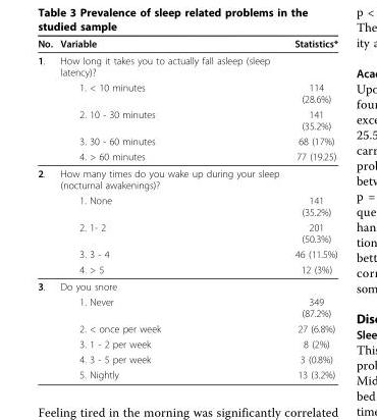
<table><thead><tr><td>No.</td><td>Variable</td><td>Statistics*</td></tr></thead><tbody><tr><td rowspan="5">1.</td><td>How long it takes you to actually fall asleep (sleep latency)?</td><td></td></tr><tr><td>1. &lt; 10 minutes</td><td>114 (28.6%)</td></tr><tr><td>2. 10 - 30 minutes</td><td>141 (35.2%)</td></tr><tr><td>3. 30 - 60 minutes</td><td>68 (17%)</td></tr><tr><td>4. &gt; 60 minutes</td><td>77 (19.25)</td></tr><tr><td rowspan="5">2.</td><td>How many times do you wake up during your sleep (nocturnal awakenings)?</td><td></td></tr><tr><td>1. None</td><td>141 (35.2%)</td></tr><tr><td>2. 1- 2</td><td>201 (50.3%)</td></tr><tr><td>3. 3 - 4</td><td>46 (11.5%)</td></tr><tr><td>4. &gt; 5</td><td>12 (3%)</td></tr><tr><td rowspan="6">3.</td><td>Do you snore</td><td></td></tr><tr><td>1. Never</td><td>349 (87.2%)</td></tr><tr><td>2. &lt; once per week</td><td>27 (6.8%)</td></tr><tr><td>3. 1 - 2 per week</td><td>8 (2%)</td></tr><tr><td>4. 3 - 5 per week</td><td>3 (0.8%)</td></tr><tr><td>5. Nightly</td><td>13 (3.2%)</td></tr></tbody></table>